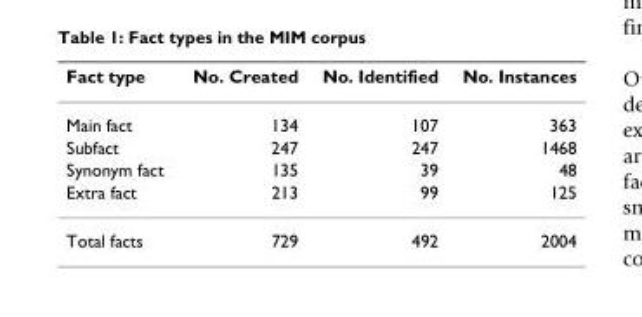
<table><thead><tr><td>Fact type</td><td>No. Created</td><td>No. Identified</td><td>No. Instances</td></tr></thead><tbody><tr><td>Main fact</td><td>134</td><td>107</td><td>363</td></tr><tr><td>Subfact</td><td>247</td><td>247</td><td>1468</td></tr><tr><td>Synonym fact</td><td>135</td><td>39</td><td>48</td></tr><tr><td>Extra fact</td><td>213</td><td>99</td><td>125</td></tr><tr><td>Total facts</td><td>729</td><td>492</td><td>2004</td></tr></tbody></table>